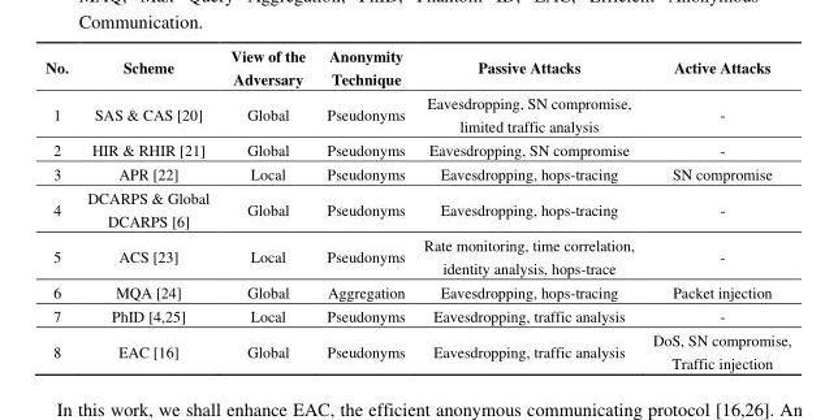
<table><thead><tr><td>No.</td><td>Scheme</td><td>View of the Adversary</td><td>Anonymity Technique</td><td>Passive Attacks</td><td>Active Attacks</td></tr></thead><tbody><tr><td>1</td><td>SAS &amp; CAS [20]</td><td>Global</td><td>Pseudonyms</td><td>Eavesdropping, SN compromise, limited traffic analysis</td><td>-</td></tr><tr><td>2</td><td>HIR &amp; RHIR [21]</td><td>Global</td><td>Pseudonyms</td><td>Eavesdropping, SN compromise</td><td>-</td></tr><tr><td>3</td><td>APR [22]</td><td>Local</td><td>Pseudonyms</td><td>Eavesdropping, hops-tracing</td><td>SN compromise</td></tr><tr><td>4</td><td>DCARPS &amp; Global DCARPS [6]</td><td>Global</td><td>Pseudonyms</td><td>Eavesdropping, hops-tracing</td><td>-</td></tr><tr><td>5</td><td>ACS [23]</td><td>Local</td><td>Pseudonyms</td><td>Rate monitoring, time correlation, identity analysis, hops-trace</td><td>-</td></tr><tr><td>6</td><td>MQA [24]</td><td>Global</td><td>Aggregation</td><td>Eavesdropping, hops-tracing</td><td>Packet injection</td></tr><tr><td>7</td><td>PhID [4,25]</td><td>Local</td><td>Pseudonyms</td><td>Eavesdropping, traffic analysis</td><td>-</td></tr><tr><td>8</td><td>EAC [16]</td><td>Global</td><td>Pseudonyms</td><td>Eavesdropping, traffic analysis</td><td>DoS, SN compromise, Traffic injection</td></tr></tbody></table>